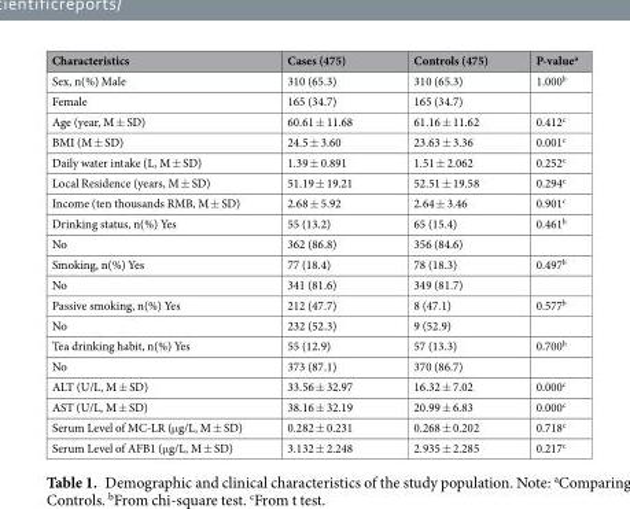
<table><thead><tr><td>Characteristics</td><td>Cases (475)</td><td>Controls (475)</td><td>P-value<sup>a</sup></td></tr></thead><tbody><tr><td>Sex, n(%) Male</td><td>310 (65.3)</td><td>310 (65.3)</td><td>1.000<sup>b</sup></td></tr><tr><td>Female</td><td>165 (34.7)</td><td>165 (34.7)</td><td></td></tr><tr><td>Age (year, M ± SD)</td><td>60.61 ± 11.68</td><td>61.16 ± 11.62</td><td>0.412<sup>c</sup></td></tr><tr><td>BMI (M ± SD)</td><td>24.5 ± 3.60</td><td>23.63 ± 3.36</td><td>0.001<sup>c</sup></td></tr><tr><td>Daily water intake (L, M ± SD)</td><td>1.39 ± 0.891</td><td>1.51 ± 2.062</td><td>0.252<sup>c</sup></td></tr><tr><td>Local Residence (years, M ± SD)</td><td>51.19 ± 19.21</td><td>52.51 ± 19.58</td><td>0.294<sup>c</sup></td></tr><tr><td>Income (ten thousands RMB, M ± SD)</td><td>2.68 ± 5.92</td><td>2.64 ± 3.46</td><td>0.901<sup>c</sup></td></tr><tr><td>Drinking status, n(%) Yes</td><td>55 (13.2)</td><td>65 (15.4)</td><td>0.461<sup>b</sup></td></tr><tr><td>No</td><td>362 (86.8)</td><td>356 (84.6)</td><td></td></tr><tr><td>Smoking, n(%) Yes</td><td>77 (18.4)</td><td>78 (18.3)</td><td>0.497<sup>b</sup></td></tr><tr><td>No</td><td>341 (81.6)</td><td>349 (81.7)</td><td></td></tr><tr><td>Passive smoking, n(%) Yes</td><td>212 (47.7)</td><td>8 (47.1)</td><td>0.577<sup>b</sup></td></tr><tr><td>No</td><td>232 (52.3)</td><td>9 (52.9)</td><td></td></tr><tr><td>Tea drinking habit, n(%) Yes</td><td>55 (12.9)</td><td>57 (13.3)</td><td>0.700<sup>b</sup></td></tr><tr><td>No</td><td>373 (87.1)</td><td>370 (86.7)</td><td></td></tr><tr><td>ALT (U/L, M ± SD)</td><td>33.56 ± 32.97</td><td>16.32 ± 7.02</td><td>0.000<sup>c</sup></td></tr><tr><td>AST (U/L, M ± SD)</td><td>38.16 ± 32.19</td><td>20.99 ± 6.83</td><td>0.000<sup>c</sup></td></tr><tr><td>Serum Level of MC-LR (μg/L, M ± SD)</td><td>0.282 ± 0.231</td><td>0.268 ± 0.202</td><td>0.718<sup>c</sup></td></tr><tr><td>Serum Level of AFB1 (μg/L, M ± SD)</td><td>3.132 ± 2.248</td><td>2.935 ± 2.285</td><td>0.217<sup>c</sup></td></tr></tbody></table>